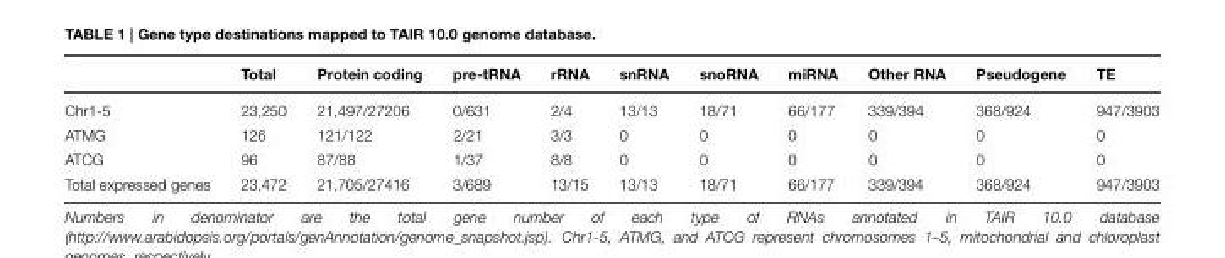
<table><thead><tr><td></td><td>Total</td><td>Protein coding</td><td>pre-tRNA</td><td>rRNA</td><td>snRNA</td><td>snoRNA</td><td>miRNA</td><td>Other RNA</td><td>Pseudogene</td><td>TE</td></tr></thead><tbody><tr><td>Chr1-5</td><td>23,250</td><td>21,497/27206</td><td>0/631</td><td>2/4</td><td>13/13</td><td>18/71</td><td>66/177</td><td>339/394</td><td>368/924</td><td>947/3903</td></tr><tr><td>ATMG</td><td>126</td><td>121/122</td><td>2/21</td><td>3/3</td><td>0</td><td>0</td><td>0</td><td>0</td><td>0</td><td>0</td></tr><tr><td>ATCG</td><td>96</td><td>87/88</td><td>1/37</td><td>8/8</td><td>0</td><td>0</td><td>0</td><td>0</td><td>0</td><td>0</td></tr><tr><td>Total expressed genes</td><td>23,472</td><td>21,705/27416</td><td>3/689</td><td>13/15</td><td>13/13</td><td>18/71</td><td>66/177</td><td>339/394</td><td>368/924</td><td>947/3903</td></tr></tbody></table>